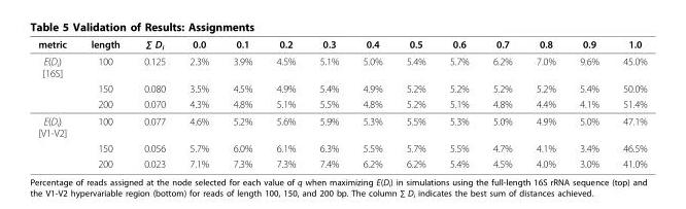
<table><thead><tr><td>metric</td><td>length</td><td>∑ D<sub>i</sub></td><td>0.0</td><td>0.1</td><td>0.2</td><td>0.3</td><td>0.4</td><td>0.5</td><td>0.6</td><td>0.7</td><td>0.8</td><td>0.9</td><td>1.0</td></tr></thead><tbody><tr><td rowspan="3">E(D<sub>i</sub>) [16S]</td><td>100</td><td>0.125</td><td>2.3%</td><td>3.9%</td><td>4.5%</td><td>5.1%</td><td>5.0%</td><td>5.4%</td><td>5.7%</td><td>6.2%</td><td>7.0%</td><td>9.6%</td><td>45.0%</td></tr><tr><td>150</td><td>0.080</td><td>3.5%</td><td>4.5%</td><td>4.9%</td><td>5.4%</td><td>4.9%</td><td>5.2%</td><td>5.2%</td><td>5.2%</td><td>5.2%</td><td>5.4%</td><td>50.0%</td></tr><tr><td>200</td><td>0.070</td><td>4.3%</td><td>4.8%</td><td>5.1%</td><td>5.5%</td><td>4.8%</td><td>5.2%</td><td>5.1%</td><td>4.8%</td><td>4.4%</td><td>4.1%</td><td>51.4%</td></tr><tr><td rowspan="3">E(D<sub>i</sub>) [V1-V2]</td><td>100</td><td>0.077</td><td>4.6%</td><td>5.2%</td><td>5.6%</td><td>5.9%</td><td>5.3%</td><td>5.5%</td><td>5.3%</td><td>5.0%</td><td>4.9%</td><td>5.0%</td><td>47.1%</td></tr><tr><td>150</td><td>0.056</td><td>5.7%</td><td>6.0%</td><td>6.1%</td><td>6.3%</td><td>5.5%</td><td>5.7%</td><td>5.5%</td><td>4.7%</td><td>4.1%</td><td>3.4%</td><td>46.5%</td></tr><tr><td>200</td><td>0.023</td><td>7.1%</td><td>7.3%</td><td>7.3%</td><td>7.4%</td><td>6.2%</td><td>6.2%</td><td>5.4%</td><td>4.5%</td><td>4.0%</td><td>3.0%</td><td>41.0%</td></tr></tbody></table>